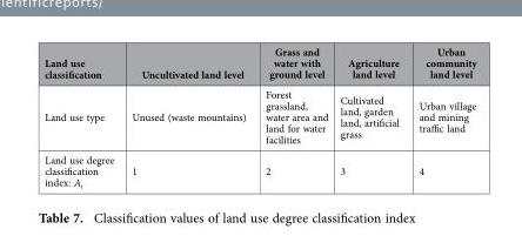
<table><thead><tr><td>Land use classification</td><td>Uncultivated land level</td><td>Grass and water with ground level</td><td>Agriculture land level</td><td>Urban community land level</td></tr></thead><tbody><tr><td>Land use type</td><td>Unused (waste mountains)</td><td>Forest grassland, water area and land for water facilities</td><td>Cultivated land, garden land, artificial grass</td><td>Urban village and mining traffic land</td></tr><tr><td>Land use degree classification index: A<sub>i</sub></td><td>1</td><td>2</td><td>3</td><td>4</td></tr></tbody></table>